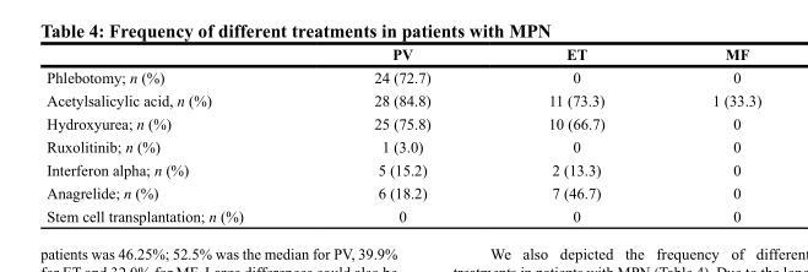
<table><thead><tr><td></td><td>PV</td><td>ET</td><td>MF</td></tr></thead><tbody><tr><td>Phlebotomy; n (%)</td><td>24 (72.7)</td><td>0</td><td>0</td></tr><tr><td>Acetylsalicylic acid, n (%)</td><td>28 (84.8)</td><td>11 (73.3)</td><td>1 (33.3)</td></tr><tr><td>Hydroxyurea; n (%)</td><td>25 (75.8)</td><td>10 (66.7)</td><td>0</td></tr><tr><td>Ruxolitinib; n (%)</td><td>1 (3.0)</td><td>0</td><td>0</td></tr><tr><td>Interferon alpha; n (%)</td><td>5 (15.2)</td><td>2 (13.3)</td><td>0</td></tr><tr><td>Anagrelide; n (%)</td><td>6 (18.2)</td><td>7 (46.7)</td><td>0</td></tr><tr><td>Stem cell transplantation; n (%)</td><td>0</td><td>0</td><td>0</td></tr></tbody></table>